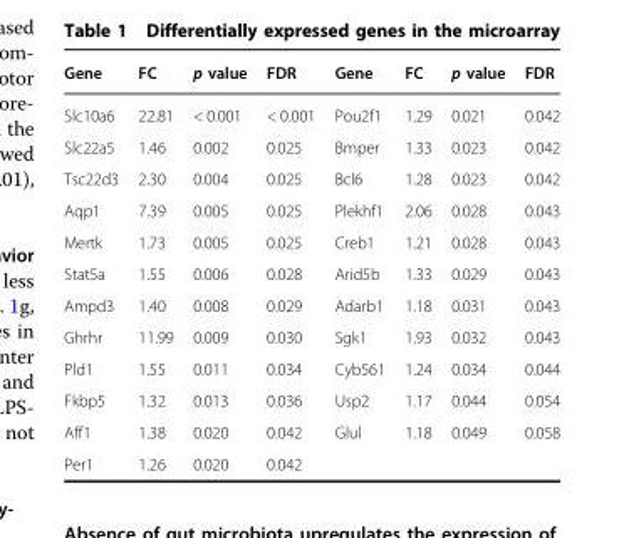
<table><thead><tr><td>Gene</td><td>FC</td><td>p value</td><td>FDR</td><td>Gene</td><td>FC</td><td>p value</td><td>FDR</td></tr></thead><tbody><tr><td>Slc10a6</td><td>22.81</td><td>&lt; 0.001</td><td>&lt; 0.001</td><td>Pou2f1</td><td>1.29</td><td>0.021</td><td>0.042</td></tr><tr><td>Slc22a5</td><td>1.46</td><td>0.002</td><td>0.025</td><td>Bmper</td><td>1.33</td><td>0.023</td><td>0.042</td></tr><tr><td>Tsc22d3</td><td>2.30</td><td>0.004</td><td>0.025</td><td>Bcl6</td><td>1.28</td><td>0.023</td><td>0.042</td></tr><tr><td>Aqp1</td><td>7.39</td><td>0.005</td><td>0.025</td><td>Plekhf1</td><td>2.06</td><td>0.028</td><td>0.043</td></tr><tr><td>Mertk</td><td>1.73</td><td>0.005</td><td>0.025</td><td>Creb1</td><td>1.21</td><td>0.028</td><td>0.043</td></tr><tr><td>Stat5a</td><td>1.55</td><td>0.006</td><td>0.028</td><td>Arid5b</td><td>1.33</td><td>0.029</td><td>0.043</td></tr><tr><td>Ampd3</td><td>1.40</td><td>0.008</td><td>0.029</td><td>Adarb1</td><td>1.18</td><td>0.031</td><td>0.043</td></tr><tr><td>Ghrhr</td><td>11.99</td><td>0.009</td><td>0.030</td><td>Sgk1</td><td>1.93</td><td>0.032</td><td>0.043</td></tr><tr><td>Pld1</td><td>1.55</td><td>0.011</td><td>0.034</td><td>Cyb561</td><td>1.24</td><td>0.034</td><td>0.044</td></tr><tr><td>Fkbp5</td><td>1.32</td><td>0.013</td><td>0.036</td><td>Usp2</td><td>1.17</td><td>0.044</td><td>0.054</td></tr><tr><td>Aff1</td><td>1.38</td><td>0.020</td><td>0.042</td><td>Glul</td><td>1.18</td><td>0.049</td><td>0.058</td></tr><tr><td>Per1</td><td>1.26</td><td>0.020</td><td>0.042</td><td></td><td></td><td></td><td></td></tr></tbody></table>